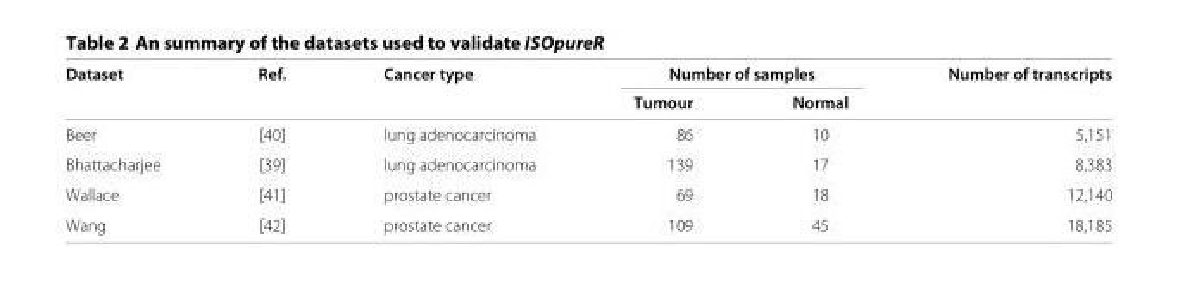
<table><thead><tr><td rowspan="2">Dataset</td><td rowspan="2">Ref.</td><td rowspan="2">Cancer type</td><td colspan="2">Number of samples</td><td rowspan="2">Number of transcripts</td></tr><tr><td>Tumour</td><td>Normal</td></tr></thead><tbody><tr><td>Beer</td><td>[40]</td><td>lung adenocarcinoma</td><td>86</td><td>10</td><td>5,151</td></tr><tr><td>Bhattacharjee</td><td>[39]</td><td>lung adenocarcinoma</td><td>139</td><td>17</td><td>8,383</td></tr><tr><td>Wallace</td><td>[41]</td><td>prostate cancer</td><td>69</td><td>18</td><td>12,140</td></tr><tr><td>Wang</td><td>[42]</td><td>prostate cancer</td><td>109</td><td>45</td><td>18,185</td></tr></tbody></table>